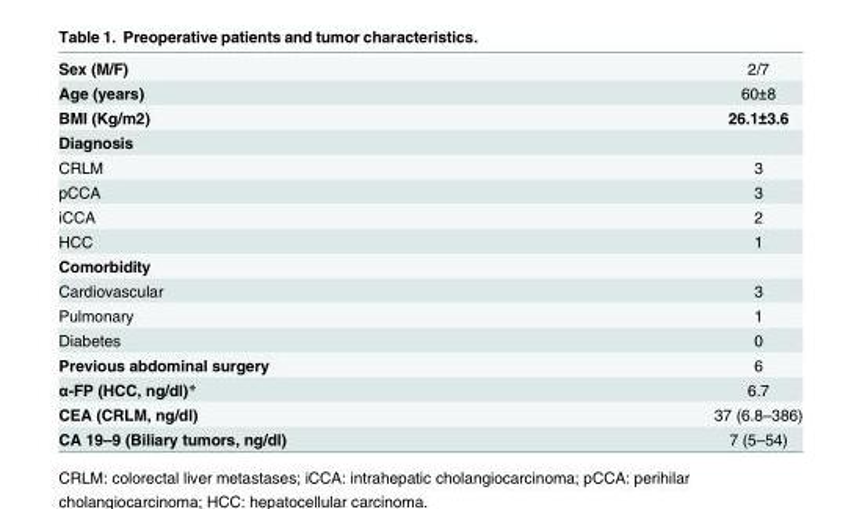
<table><tbody><tr><td>Sex (M/F)</td><td>2/7</td></tr><tr><td>Age (years)</td><td>60±8</td></tr><tr><td>BMI (Kg/m2)</td><td>26.1±3.6</td></tr><tr><td colspan="2">Diagnosis</td></tr><tr><td>CRLM</td><td>3</td></tr><tr><td>pCCA</td><td>3</td></tr><tr><td>iCCA</td><td>2</td></tr><tr><td>HCC</td><td>1</td></tr><tr><td colspan="2">Comorbidity</td></tr><tr><td>Cardiovascular</td><td>3</td></tr><tr><td>Pulmonary</td><td>1</td></tr><tr><td>Diabetes</td><td>0</td></tr><tr><td>Previous abdominal surgery</td><td>6</td></tr><tr><td>α-FP (HCC, ng/dl)*</td><td>6.7</td></tr><tr><td>CEA (CRLM, ng/dl)</td><td>37 (6.8–386)</td></tr><tr><td>CA 19–9 (Biliary tumors, ng/dl)</td><td>7 (5–54)</td></tr></tbody></table>